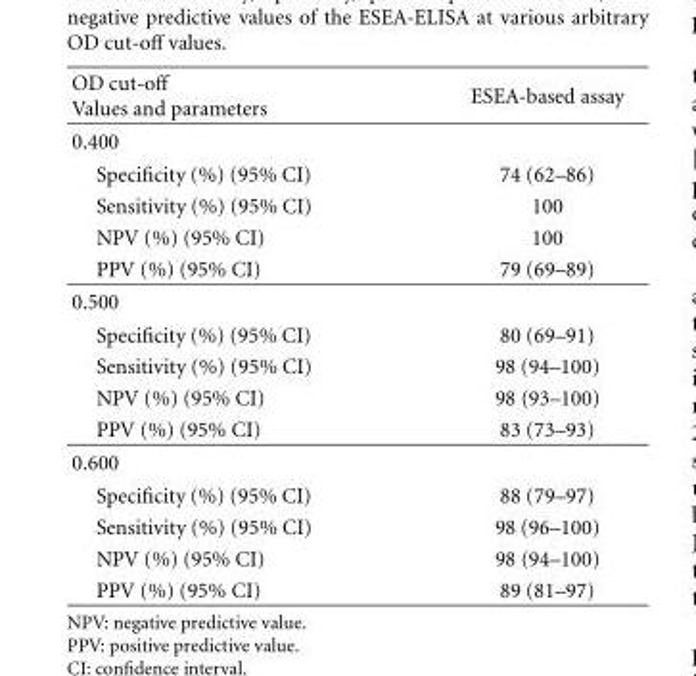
<table><thead><tr><td>OD cut-off Values and parameters</td><td>ESEA-based assay</td></tr></thead><tbody><tr><td colspan="2">0.400</td></tr><tr><td>Specificity (%) (95% CI)</td><td>74 (62–86)</td></tr><tr><td>Sensitivity (%) (95% CI)</td><td>100</td></tr><tr><td>NPV (%) (95% CI)</td><td>100</td></tr><tr><td>PPV (%) (95% CI)</td><td>79 (69–89)</td></tr><tr><td colspan="2">0.500</td></tr><tr><td>Specificity (%) (95% CI)</td><td>80 (69–91)</td></tr><tr><td>Sensitivity (%) (95% CI)</td><td>98 (94–100)</td></tr><tr><td>NPV (%) (95% CI)</td><td>98 (93–100)</td></tr><tr><td>PPV (%) (95% CI)</td><td>83 (73–93)</td></tr><tr><td colspan="2">0.600</td></tr><tr><td>Specificity (%) (95% CI)</td><td>88 (79–97)</td></tr><tr><td>Sensitivity (%) (95% CI)</td><td>98 (96–100)</td></tr><tr><td>NPV (%) (95% CI)</td><td>98 (94–100)</td></tr><tr><td>PPV (%) (95% CI)</td><td>89 (81–97)</td></tr></tbody></table>